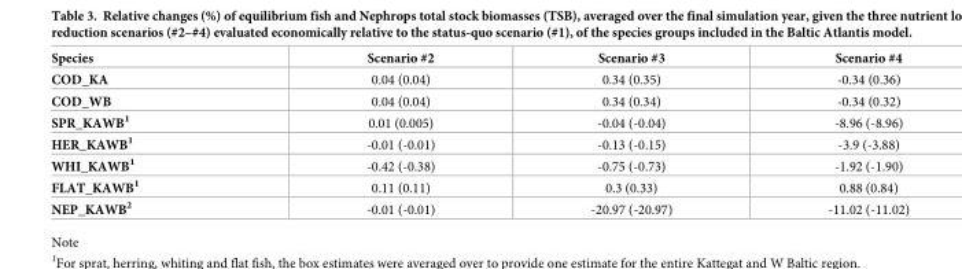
<table><thead><tr><td>Species</td><td>Scenario #2</td><td>Scenario #3</td><td>Scenario #4</td></tr></thead><tbody><tr><td>COD_KA</td><td>0.04 (0.04)</td><td>0.34 (0.35)</td><td>-0.34 (0.36)</td></tr><tr><td>COD_WB</td><td>0.04 (0.04)</td><td>0.34 (0.34)</td><td>-0.34 (0.32)</td></tr><tr><td>SPR_KAWB<sup>1</sup></td><td>0.01 (0.005)</td><td>-0.04 (-0.04)</td><td>-8.96 (-8.96)</td></tr><tr><td>HER_KAWB<sup>1</sup></td><td>-0.01 (-0.01)</td><td>-0.13 (-0.15)</td><td>-3.9 (-3.88)</td></tr><tr><td>WHI_KAWB<sup>1</sup></td><td>-0.42 (-0.38)</td><td>-0.75 (-0.73)</td><td>-1.92 (-1.90)</td></tr><tr><td>FLAT_KAWB<sup>1</sup></td><td>0.11 (0.11)</td><td>0.3 (0.33)</td><td>0.88 (0.84)</td></tr><tr><td>NEP_KAWB<sup>2</sup></td><td>-0.01 (-0.01)</td><td>-20.97 (-20.97)</td><td>-11.02 (-11.02)</td></tr></tbody></table>